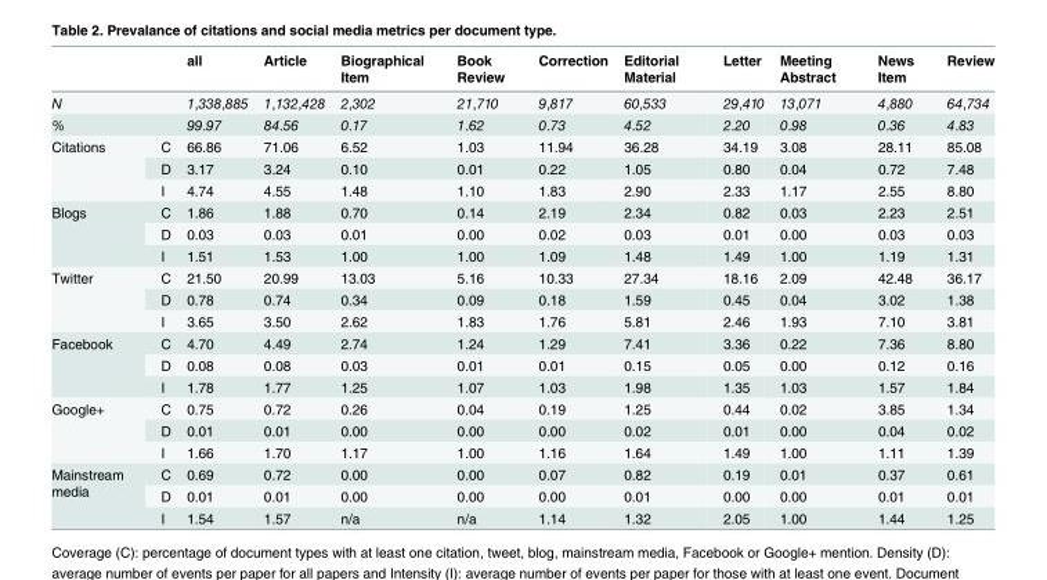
<table><thead><tr><td></td><td></td><td>all</td><td>Article</td><td>Biographical Item</td><td>Book Review</td><td>Correction</td><td>Editorial Material</td><td>Letter</td><td>Meeting Abstract</td><td>News Item</td><td>Review</td></tr></thead><tbody><tr><td>N</td><td></td><td>1,338,885</td><td>1,132,428</td><td>2,302</td><td>21,710</td><td>9,817</td><td>60,533</td><td>29,410</td><td>13,071</td><td>4,880</td><td>64,734</td></tr><tr><td>%</td><td></td><td>99.97</td><td>84.56</td><td>0.17</td><td>1.62</td><td>0.73</td><td>4.52</td><td>2.20</td><td>0.98</td><td>0.36</td><td>4.83</td></tr><tr><td rowspan="3">Citations</td><td>C</td><td>66.86</td><td>71.06</td><td>6.52</td><td>1.03</td><td>11.94</td><td>36.28</td><td>34.19</td><td>3.08</td><td>28.11</td><td>85.08</td></tr><tr><td>D</td><td>3.17</td><td>3.24</td><td>0.10</td><td>0.01</td><td>0.22</td><td>1.05</td><td>0.80</td><td>0.04</td><td>0.72</td><td>7.48</td></tr><tr><td>I</td><td>4.74</td><td>4.55</td><td>1.48</td><td>1.10</td><td>1.83</td><td>2.90</td><td>2.33</td><td>1.17</td><td>2.55</td><td>8.80</td></tr><tr><td rowspan="3">Blogs</td><td>C</td><td>1.86</td><td>1.88</td><td>0.70</td><td>0.14</td><td>2.19</td><td>2.34</td><td>0.82</td><td>0.03</td><td>2.23</td><td>2.51</td></tr><tr><td>D</td><td>0.03</td><td>0.03</td><td>0.01</td><td>0.00</td><td>0.02</td><td>0.03</td><td>0.01</td><td>0.00</td><td>0.03</td><td>0.03</td></tr><tr><td>I</td><td>1.51</td><td>1.53</td><td>1.00</td><td>1.00</td><td>1.09</td><td>1.48</td><td>1.49</td><td>1.00</td><td>1.19</td><td>1.31</td></tr><tr><td rowspan="3">Twitter</td><td>C</td><td>21.50</td><td>20.99</td><td>13.03</td><td>5.16</td><td>10.33</td><td>27.34</td><td>18.16</td><td>2.09</td><td>42.48</td><td>36.17</td></tr><tr><td>D</td><td>0.78</td><td>0.74</td><td>0.34</td><td>0.09</td><td>0.18</td><td>1.59</td><td>0.45</td><td>0.04</td><td>3.02</td><td>1.38</td></tr><tr><td>I</td><td>3.65</td><td>3.50</td><td>2.62</td><td>1.83</td><td>1.76</td><td>5.81</td><td>2.46</td><td>1.93</td><td>7.10</td><td>3.81</td></tr><tr><td rowspan="3">Facebook</td><td>C</td><td>4.70</td><td>4.49</td><td>2.74</td><td>1.24</td><td>1.29</td><td>7.41</td><td>3.36</td><td>0.22</td><td>7.36</td><td>8.80</td></tr><tr><td>D</td><td>0.08</td><td>0.08</td><td>0.03</td><td>0.01</td><td>0.01</td><td>0.15</td><td>0.05</td><td>0.00</td><td>0.12</td><td>0.16</td></tr><tr><td>I</td><td>1.78</td><td>1.77</td><td>1.25</td><td>1.07</td><td>1.03</td><td>1.98</td><td>1.35</td><td>1.03</td><td>1.57</td><td>1.84</td></tr><tr><td rowspan="3">Google+</td><td>C</td><td>0.75</td><td>0.72</td><td>0.26</td><td>0.04</td><td>0.19</td><td>1.25</td><td>0.44</td><td>0.02</td><td>3.85</td><td>1.34</td></tr><tr><td>D</td><td>0.01</td><td>0.01</td><td>0.00</td><td>0.00</td><td>0.00</td><td>0.02</td><td>0.01</td><td>0.00</td><td>0.04</td><td>0.02</td></tr><tr><td>I</td><td>1.66</td><td>1.70</td><td>1.17</td><td>1.00</td><td>1.16</td><td>1.64</td><td>1.49</td><td>1.00</td><td>1.11</td><td>1.39</td></tr><tr><td rowspan="3">Mainstream media</td><td>C</td><td>0.69</td><td>0.72</td><td>0.00</td><td>0.00</td><td>0.07</td><td>0.82</td><td>0.19</td><td>0.01</td><td>0.37</td><td>0.61</td></tr><tr><td>D</td><td>0.01</td><td>0.01</td><td>0.00</td><td>0.00</td><td>0.00</td><td>0.01</td><td>0.00</td><td>0.00</td><td>0.01</td><td>0.01</td></tr><tr><td>I</td><td>1.54</td><td>1.57</td><td>n/a</td><td>n/a</td><td>1.14</td><td>1.32</td><td>2.05</td><td>1.00</td><td>1.44</td><td>1.25</td></tr></tbody></table>